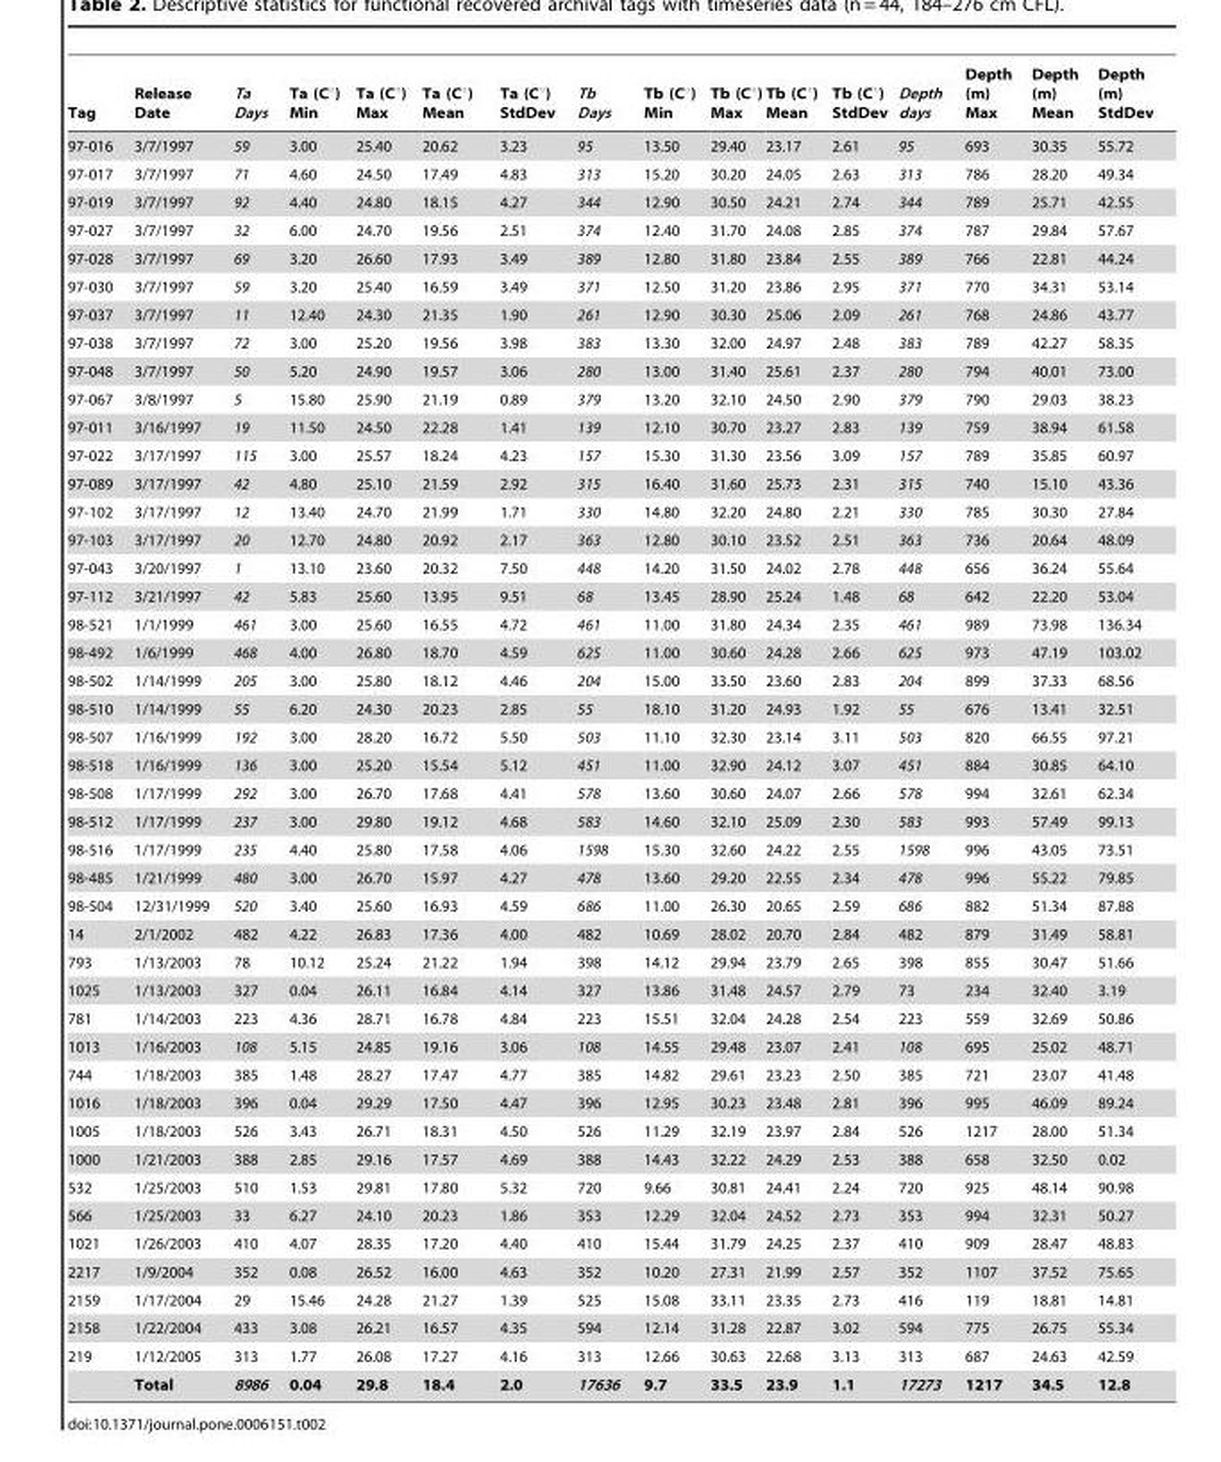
<table><thead><tr><td>Tag</td><td>Release Date</td><td>Ta Days</td><td>Ta (C°) Min</td><td>Ta (C°) Max</td><td>Ta (C°) Mean</td><td>Ta (C°) StdDev</td><td>Tb Days</td><td>Tb (C°) Min</td><td>Tb (C°) Max</td><td>Tb (C°) Mean</td><td>Tb (C°) StdDev</td><td>Depth days</td><td>Depth (m) Max</td><td>Depth (m) Mean</td><td>Depth (m) StdDev</td></tr></thead><tbody><tr><td>97-016</td><td>3/7/1997</td><td>59</td><td>3.00</td><td>25.40</td><td>20.62</td><td>3.23</td><td>95</td><td>13.50</td><td>29.40</td><td>23.17</td><td>2.61</td><td>95</td><td>693</td><td>30.35</td><td>55.72</td></tr><tr><td>97-017</td><td>3/7/1997</td><td>71</td><td>4.60</td><td>24.50</td><td>17.49</td><td>4.83</td><td>313</td><td>15.20</td><td>30.20</td><td>24.05</td><td>2.63</td><td>313</td><td>786</td><td>28.20</td><td>49.34</td></tr><tr><td>97-019</td><td>3/7/1997</td><td>92</td><td>4.40</td><td>24.80</td><td>18.15</td><td>4.27</td><td>344</td><td>12.90</td><td>30.50</td><td>24.21</td><td>2.74</td><td>344</td><td>789</td><td>25.71</td><td>42.55</td></tr><tr><td>97-027</td><td>3/7/1997</td><td>32</td><td>6.00</td><td>24.70</td><td>19.56</td><td>2.51</td><td>374</td><td>12.40</td><td>31.70</td><td>24.08</td><td>2.85</td><td>374</td><td>787</td><td>29.84</td><td>57.67</td></tr><tr><td>97-028</td><td>3/7/1997</td><td>69</td><td>3.20</td><td>26.60</td><td>17.93</td><td>3.49</td><td>389</td><td>12.80</td><td>31.80</td><td>23.84</td><td>2.55</td><td>389</td><td>766</td><td>22.81</td><td>44.24</td></tr><tr><td>97-030</td><td>3/7/1997</td><td>59</td><td>3.20</td><td>25.40</td><td>16.59</td><td>3.49</td><td>371</td><td>12.50</td><td>31.20</td><td>23.86</td><td>2.95</td><td>371</td><td>770</td><td>34.31</td><td>53.14</td></tr><tr><td>97-037</td><td>3/7/1997</td><td>11</td><td>12.40</td><td>24.30</td><td>21.35</td><td>1.90</td><td>261</td><td>12.90</td><td>30.30</td><td>25.06</td><td>2.09</td><td>261</td><td>768</td><td>24.86</td><td>43.77</td></tr><tr><td>97-038</td><td>3/7/1997</td><td>72</td><td>3.00</td><td>25.20</td><td>19.56</td><td>3.98</td><td>383</td><td>13.30</td><td>32.00</td><td>24.97</td><td>2.48</td><td>383</td><td>789</td><td>42.27</td><td>58.35</td></tr><tr><td>97-048</td><td>3/7/1997</td><td>50</td><td>5.20</td><td>24.90</td><td>19.57</td><td>3.06</td><td>280</td><td>13.00</td><td>31.40</td><td>25.61</td><td>2.37</td><td>280</td><td>794</td><td>40.01</td><td>73.00</td></tr><tr><td>97-067</td><td>3/8/1997</td><td>5</td><td>15.80</td><td>25.90</td><td>21.19</td><td>0.89</td><td>379</td><td>13.20</td><td>32.10</td><td>24.50</td><td>2.90</td><td>379</td><td>790</td><td>29.03</td><td>38.23</td></tr><tr><td>97-011</td><td>3/16/1997</td><td>19</td><td>11.50</td><td>24.50</td><td>22.28</td><td>1.41</td><td>139</td><td>12.10</td><td>30.70</td><td>23.27</td><td>2.83</td><td>139</td><td>759</td><td>38.94</td><td>61.58</td></tr><tr><td>97-022</td><td>3/17/1997</td><td>115</td><td>3.00</td><td>25.57</td><td>18.24</td><td>4.23</td><td>157</td><td>15.30</td><td>31.30</td><td>23.56</td><td>3.09</td><td>157</td><td>789</td><td>35.85</td><td>60.97</td></tr><tr><td>97-089</td><td>3/17/1997</td><td>42</td><td>4.80</td><td>25.10</td><td>21.59</td><td>2.92</td><td>315</td><td>16.40</td><td>31.60</td><td>25.73</td><td>2.31</td><td>315</td><td>740</td><td>15.10</td><td>43.36</td></tr><tr><td>97-102</td><td>3/17/1997</td><td>12</td><td>13.40</td><td>24.70</td><td>21.99</td><td>1.71</td><td>330</td><td>14.80</td><td>32.20</td><td>24.80</td><td>2.21</td><td>330</td><td>785</td><td>30.30</td><td>27.84</td></tr><tr><td>97-103</td><td>3/17/1997</td><td>20</td><td>12.70</td><td>24.80</td><td>20.92</td><td>2.17</td><td>363</td><td>12.80</td><td>30.10</td><td>23.52</td><td>2.51</td><td>363</td><td>736</td><td>20.64</td><td>48.09</td></tr><tr><td>97-043</td><td>3/20/1997</td><td>1</td><td>13.10</td><td>23.60</td><td>20.32</td><td>7.50</td><td>448</td><td>14.20</td><td>31.50</td><td>24.02</td><td>2.78</td><td>448</td><td>656</td><td>36.24</td><td>55.64</td></tr><tr><td>97-112</td><td>3/21/1997</td><td>42</td><td>5.83</td><td>25.60</td><td>13.95</td><td>9.51</td><td>68</td><td>13.45</td><td>28.90</td><td>25.24</td><td>1.48</td><td>68</td><td>642</td><td>22.20</td><td>53.04</td></tr><tr><td>98-521</td><td>1/1/1999</td><td>461</td><td>3.00</td><td>25.60</td><td>16.55</td><td>4.72</td><td>461</td><td>11.00</td><td>31.80</td><td>24.34</td><td>2.35</td><td>461</td><td>989</td><td>73.98</td><td>136.34</td></tr><tr><td>98-492</td><td>1/6/1999</td><td>468</td><td>4.00</td><td>26.80</td><td>18.70</td><td>4.59</td><td>625</td><td>11.00</td><td>30.60</td><td>24.28</td><td>2.66</td><td>625</td><td>973</td><td>47.19</td><td>103.02</td></tr><tr><td>98-502</td><td>1/14/1999</td><td>205</td><td>3.00</td><td>25.80</td><td>18.12</td><td>4.46</td><td>204</td><td>15.00</td><td>33.50</td><td>23.60</td><td>2.83</td><td>204</td><td>899</td><td>37.33</td><td>68.56</td></tr><tr><td>98-510</td><td>1/14/1999</td><td>55</td><td>6.20</td><td>24.30</td><td>20.23</td><td>2.85</td><td>55</td><td>18.10</td><td>31.20</td><td>24.93</td><td>1.92</td><td>55</td><td>676</td><td>13.41</td><td>32.51</td></tr><tr><td>98-507</td><td>1/16/1999</td><td>192</td><td>3.00</td><td>28.20</td><td>16.72</td><td>5.50</td><td>503</td><td>11.10</td><td>32.30</td><td>23.14</td><td>3.11</td><td>503</td><td>820</td><td>66.55</td><td>97.21</td></tr><tr><td>98-518</td><td>1/16/1999</td><td>136</td><td>3.00</td><td>25.20</td><td>15.54</td><td>5.12</td><td>451</td><td>11.00</td><td>32.90</td><td>24.12</td><td>3.07</td><td>451</td><td>884</td><td>30.85</td><td>64.10</td></tr><tr><td>98-508</td><td>1/17/1999</td><td>292</td><td>3.00</td><td>26.70</td><td>17.68</td><td>4.41</td><td>578</td><td>13.60</td><td>30.60</td><td>24.07</td><td>2.66</td><td>578</td><td>994</td><td>32.61</td><td>62.34</td></tr><tr><td>98-512</td><td>1/17/1999</td><td>237</td><td>3.00</td><td>29.80</td><td>19.12</td><td>4.68</td><td>583</td><td>14.60</td><td>32.10</td><td>25.09</td><td>2.30</td><td>583</td><td>993</td><td>57.49</td><td>99.13</td></tr><tr><td>98-516</td><td>1/17/1999</td><td>235</td><td>4.40</td><td>25.80</td><td>17.58</td><td>4.06</td><td>1598</td><td>15.30</td><td>32.60</td><td>24.22</td><td>2.55</td><td>1598</td><td>996</td><td>43.05</td><td>73.51</td></tr><tr><td>98-485</td><td>1/21/1999</td><td>480</td><td>3.00</td><td>26.70</td><td>15.97</td><td>4.27</td><td>478</td><td>13.60</td><td>29.20</td><td>22.55</td><td>2.34</td><td>478</td><td>996</td><td>55.22</td><td>79.85</td></tr><tr><td>98-504</td><td>12/31/1999</td><td>520</td><td>3.40</td><td>25.60</td><td>16.93</td><td>4.59</td><td>686</td><td>11.00</td><td>26.30</td><td>20.65</td><td>2.59</td><td>686</td><td>882</td><td>51.34</td><td>87.88</td></tr><tr><td>14</td><td>2/1/2002</td><td>482</td><td>4.22</td><td>26.83</td><td>17.36</td><td>4.00</td><td>482</td><td>10.69</td><td>28.02</td><td>20.70</td><td>2.84</td><td>482</td><td>879</td><td>31.49</td><td>58.81</td></tr><tr><td>793</td><td>1/13/2003</td><td>78</td><td>10.12</td><td>25.24</td><td>21.22</td><td>1.94</td><td>398</td><td>14.12</td><td>29.94</td><td>23.79</td><td>2.65</td><td>398</td><td>855</td><td>30.47</td><td>51.66</td></tr><tr><td>1025</td><td>1/13/2003</td><td>327</td><td>0.04</td><td>26.11</td><td>16.84</td><td>4.14</td><td>327</td><td>13.86</td><td>31.48</td><td>24.57</td><td>2.79</td><td>73</td><td>234</td><td>32.40</td><td>3.19</td></tr><tr><td>781</td><td>1/14/2003</td><td>223</td><td>4.36</td><td>28.71</td><td>16.78</td><td>4.84</td><td>223</td><td>15.51</td><td>32.04</td><td>24.28</td><td>2.54</td><td>223</td><td>559</td><td>32.69</td><td>50.86</td></tr><tr><td>1013</td><td>1/16/2003</td><td>108</td><td>5.15</td><td>24.85</td><td>19.16</td><td>3.06</td><td>108</td><td>14.55</td><td>29.48</td><td>23.07</td><td>2.41</td><td>108</td><td>695</td><td>25.02</td><td>48.71</td></tr><tr><td>744</td><td>1/18/2003</td><td>385</td><td>1.48</td><td>28.27</td><td>17.47</td><td>4.77</td><td>385</td><td>14.82</td><td>29.61</td><td>23.23</td><td>2.50</td><td>385</td><td>721</td><td>23.07</td><td>41.48</td></tr><tr><td>1016</td><td>1/18/2003</td><td>396</td><td>0.04</td><td>29.29</td><td>17.50</td><td>4.47</td><td>396</td><td>12.95</td><td>30.23</td><td>23.48</td><td>2.81</td><td>396</td><td>995</td><td>46.09</td><td>89.24</td></tr><tr><td>1005</td><td>1/18/2003</td><td>526</td><td>3.43</td><td>26.71</td><td>18.31</td><td>4.50</td><td>526</td><td>11.29</td><td>32.19</td><td>23.97</td><td>2.84</td><td>526</td><td>1217</td><td>28.00</td><td>51.34</td></tr><tr><td>1000</td><td>1/21/2003</td><td>388</td><td>2.85</td><td>29.16</td><td>17.57</td><td>4.69</td><td>388</td><td>14.43</td><td>32.22</td><td>24.29</td><td>2.53</td><td>388</td><td>658</td><td>32.50</td><td>0.02</td></tr><tr><td>532</td><td>1/25/2003</td><td>510</td><td>1.53</td><td>29.81</td><td>17.80</td><td>5.32</td><td>720</td><td>9.66</td><td>30.81</td><td>24.41</td><td>2.24</td><td>720</td><td>925</td><td>48.14</td><td>90.98</td></tr><tr><td>566</td><td>1/25/2003</td><td>33</td><td>6.27</td><td>24.10</td><td>20.23</td><td>1.86</td><td>353</td><td>12.29</td><td>32.04</td><td>24.52</td><td>2.73</td><td>353</td><td>994</td><td>32.31</td><td>50.27</td></tr><tr><td>1021</td><td>1/26/2003</td><td>410</td><td>4.07</td><td>28.35</td><td>17.20</td><td>4.40</td><td>410</td><td>15.44</td><td>31.79</td><td>24.25</td><td>2.37</td><td>410</td><td>909</td><td>28.47</td><td>48.83</td></tr><tr><td>2217</td><td>1/9/2004</td><td>352</td><td>0.08</td><td>26.52</td><td>16.00</td><td>4.63</td><td>352</td><td>10.20</td><td>27.31</td><td>21.99</td><td>2.57</td><td>352</td><td>1107</td><td>37.52</td><td>75.65</td></tr><tr><td>2159</td><td>1/17/2004</td><td>29</td><td>15.46</td><td>24.28</td><td>21.27</td><td>1.39</td><td>525</td><td>15.08</td><td>33.11</td><td>23.35</td><td>2.73</td><td>416</td><td>119</td><td>18.81</td><td>14.81</td></tr><tr><td>2158</td><td>1/22/2004</td><td>433</td><td>3.08</td><td>26.21</td><td>16.57</td><td>4.35</td><td>594</td><td>12.14</td><td>31.28</td><td>22.87</td><td>3.02</td><td>594</td><td>775</td><td>26.75</td><td>55.34</td></tr><tr><td rowspan="2">219</td><td>1/12/2005</td><td>313</td><td>1.77</td><td>26.08</td><td>17.27</td><td>4.16</td><td>313</td><td>12.66</td><td>30.63</td><td>22.68</td><td>3.13</td><td>313</td><td>687</td><td>24.63</td><td>42.59</td></tr><tr><td>Total</td><td>8986</td><td>0.04</td><td>29.8</td><td>18.4</td><td>2.0</td><td>17636</td><td>9.7</td><td>33.5</td><td>23.9</td><td>1.1</td><td>17273</td><td>1217</td><td>34.5</td><td>12.8</td></tr></tbody></table>